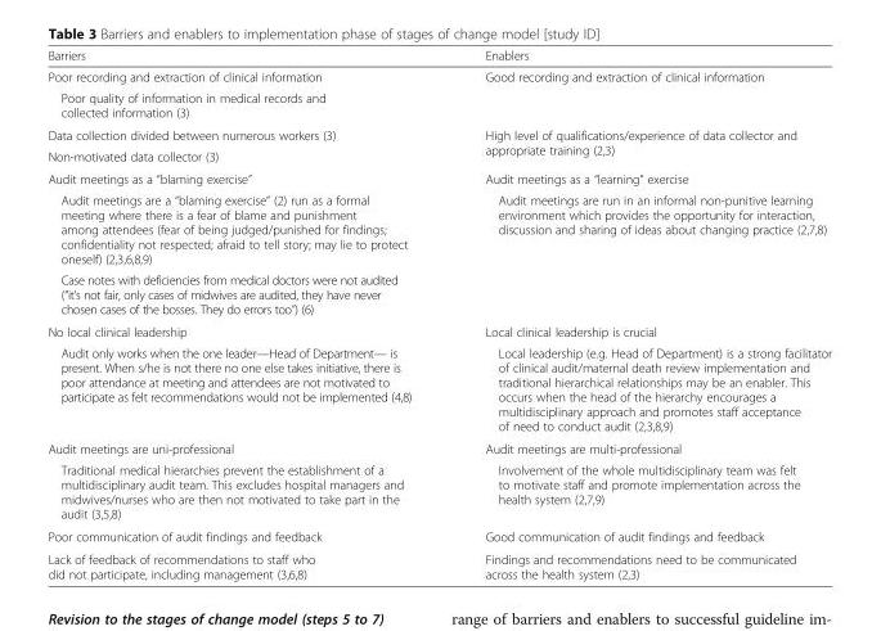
<table><thead><tr><td>Barriers</td><td>Enablers</td></tr></thead><tbody><tr><td>Poor recording and extraction of clinical information Poor quality of information in medical records and collected information (3)</td><td>Good recording and extraction of clinical information</td></tr><tr><td>Data collection divided between numerous workers (3) Non-motivated data collector (3)</td><td>High level of qualifications/experience of data collector and appropriate training (2,3)</td></tr><tr><td>Audit meetings as a “blaming exercise” Audit meetings are a “blaming exercise” (2) run as a formal meeting where there is a fear of blame and punishment among attendees (fear of being judged/punished for findings; confidentiality not respected; afraid to tell story; may lie to protect oneself) (2,3,6,8,9) Case notes with deficiencies from medical doctors were not audited (“it’s not fair, only cases of midwives are audited, they have never chosen cases of the bosses. They do errors too”) (6)</td><td>Audit meetings as a “learning” exercise Audit meetings are run in an informal non-punitive learning environment which provides the opportunity for interaction, discussion and sharing of ideas about changing practice (2,7,8)</td></tr><tr><td>No local clinical leadership Audit only works when the one leader—Head of Department— is present. When s/he is not there no one else takes initiative, there is poor attendance at meeting and attendees are not motivated to participate as felt recommendations would not be implemented (4,8)</td><td>Local clinical leadership is crucial Local leadership (e.g. Head of Department) is a strong facilitator of clinical audit/maternal death review implementation and traditional hierarchical relationships may be an enabler. This occurs when the head of the hierarchy encourages a multidisciplinary approach and promotes staff acceptance of need to conduct audit (2,3,8,9)</td></tr><tr><td>Audit meetings are uni-professional Traditional medical hierarchies prevent the establishment of a multidisciplinary audit team. This excludes hospital managers and midwives/nurses who are then not motivated to take part in the audit (3,5,8)</td><td>Audit meetings are multi-professional Involvement of the whole multidisciplinary team was felt to motivate staff and promote implementation across the health system (2,7,9)</td></tr><tr><td>Poor communication of audit findings and feedback</td><td>Good communication of audit findings and feedback</td></tr><tr><td>Lack of feedback of recommendations to staff who did not participate, including management (3,6,8)</td><td>Findings and recommendations need to be communicated across the health system (2,3)</td></tr></tbody></table>